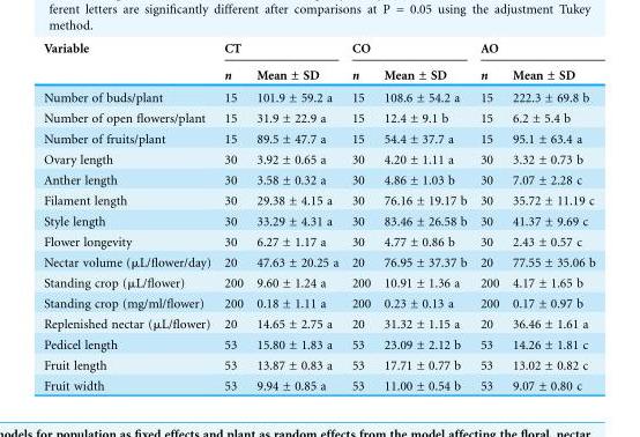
<table><thead><tr><td rowspan="2">Variable</td><td colspan="2">CT</td><td colspan="2">CO</td><td colspan="2">AO</td></tr><tr><td>n</td><td>Mean ± SD</td><td>n</td><td>Mean ± SD</td><td>n</td><td>Mean ± SD</td></tr></thead><tbody><tr><td>Number of buds/plant</td><td>15</td><td>101.9 ± 59.2 a</td><td>15</td><td>108.6 ± 54.2 a</td><td>15</td><td>222.3 ± 69.8 b</td></tr><tr><td>Number of open flowers/plant</td><td>15</td><td>31.9 ± 22.9 a</td><td>15</td><td>12.4 ± 9.1 b</td><td>15</td><td>6.2 ± 5.4 b</td></tr><tr><td>Number of fruits/plant</td><td>15</td><td>89.5 ± 47.7 a</td><td>15</td><td>54.4 ± 37.7 a</td><td>15</td><td>95.1 ± 63.4 a</td></tr><tr><td>Ovary length</td><td>30</td><td>3.92 ± 0.65 a</td><td>30</td><td>4.20 ± 1.11 a</td><td>30</td><td>3.32 ± 0.73 b</td></tr><tr><td>Anther length</td><td>30</td><td>3.58 ± 0.32 a</td><td>30</td><td>4.86 ± 1.03 b</td><td>30</td><td>7.07 ± 2.28 c</td></tr><tr><td>Filament length</td><td>30</td><td>29.38 ± 4.15 a</td><td>30</td><td>76.16 ± 19.17 b</td><td>30</td><td>35.72 ± 11.19 c</td></tr><tr><td>Style length</td><td>30</td><td>33.29 ± 4.31 a</td><td>30</td><td>83.46 ± 26.58 b</td><td>30</td><td>41.37 ± 9.69 c</td></tr><tr><td>Flower longevity</td><td>30</td><td>6.27 ± 1.17 a</td><td>30</td><td>4.77 ± 0.86 b</td><td>30</td><td>2.43 ± 0.57 c</td></tr><tr><td>Nectar volume (μL/flower/day)</td><td>20</td><td>47.63 ± 20.25 a</td><td>20</td><td>76.95 ± 37.37 b</td><td>20</td><td>77.55 ± 35.06 b</td></tr><tr><td>Standing crop (μL/flower)</td><td>200</td><td>9.60 ± 1.24 a</td><td>200</td><td>10.91 ± 1.36 a</td><td>200</td><td>4.17 ± 1.65 b</td></tr><tr><td>Standing crop (mg/ml/flower)</td><td>200</td><td>0.18 ± 1.11 a</td><td>200</td><td>0.23 ± 0.13 a</td><td>200</td><td>0.17 ± 0.97 b</td></tr><tr><td>Replenished nectar (μL/flower)</td><td>20</td><td>14.65 ± 2.75 a</td><td>20</td><td>31.32 ± 1.15 a</td><td>20</td><td>36.46 ± 1.61 a</td></tr><tr><td>Pedicel length</td><td>53</td><td>15.80 ± 1.83 a</td><td>53</td><td>23.09 ± 2.12 b</td><td>53</td><td>14.26 ± 1.81 c</td></tr><tr><td>Fruit length</td><td>53</td><td>13.87 ± 0.83 a</td><td>53</td><td>17.71 ± 0.77 b</td><td>53</td><td>13.02 ± 0.82 c</td></tr><tr><td>Fruit width</td><td>53</td><td>9.94 ± 0.85 a</td><td>53</td><td>11.00 ± 0.54 b</td><td>53</td><td>9.07 ± 0.80 c</td></tr></tbody></table>